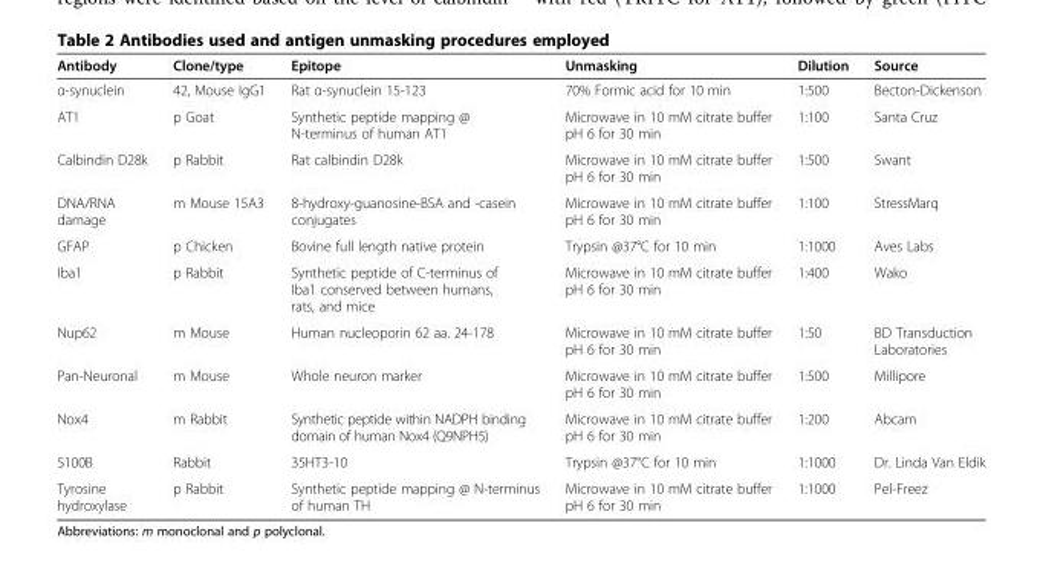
<table><thead><tr><td>Antibody</td><td>Clone/type</td><td>Epitope</td><td>Unmasking</td><td>Dilution</td><td>Source</td></tr></thead><tbody><tr><td>α-synuclein</td><td>42, Mouse IgG1</td><td>Rat α-synuclein 15-123</td><td>70% Formic acid for 10 min</td><td>1:500</td><td>Becton-Dickenson</td></tr><tr><td>AT1</td><td>p Goat</td><td>Synthetic peptide mapping @ N-terminus of human AT1</td><td>Microwave in 10 mM citrate buffer pH 6 for 30 min</td><td>1:100</td><td>Santa Cruz</td></tr><tr><td>Calbindin D28k</td><td>p Rabbit</td><td>Rat calbindin D28k</td><td>Microwave in 10 mM citrate buffer pH 6 for 30 min</td><td>1:500</td><td>Swant</td></tr><tr><td>DNA/RNA damage</td><td>m Mouse 15A3</td><td>8-hydroxy-guanosine-BSA and -casein conjugates</td><td>Microwave in 10 mM citrate buffer pH 6 for 30 min</td><td>1:100</td><td>StressMarq</td></tr><tr><td>GFAP</td><td>p Chicken</td><td>Bovine full length native protein</td><td>Trypsin @37°C for 10 min</td><td>1:1000</td><td>Aves Labs</td></tr><tr><td>Iba1</td><td>p Rabbit</td><td>Synthetic peptide of C-terminus of Iba1 conserved between humans, rats, and mice</td><td>Microwave in 10 mM citrate buffer pH 6 for 30 min</td><td>1:400</td><td>Wako</td></tr><tr><td>Nup62</td><td>m Mouse</td><td>Human nucleoporin 62 aa. 24-178</td><td>Microwave in 10 mM citrate buffer pH 6 for 30 min</td><td>1:50</td><td>BD Transduction Laboratories</td></tr><tr><td>Pan-Neuronal</td><td>m Mouse</td><td>Whole neuron marker</td><td>Microwave in 10 mM citrate buffer pH 6 for 30 min</td><td>1:500</td><td>Millipore</td></tr><tr><td>Nox4</td><td>m Rabbit</td><td>Synthetic peptide within NADPH binding domain of human Nox4 (Q9NPH5)</td><td>Microwave in 10 mM citrate buffer pH 6 for 30 min</td><td>1:200</td><td>Abcam</td></tr><tr><td>S100B</td><td>Rabbit</td><td>35HT3-10</td><td>Trypsin @37°C for 10 min</td><td>1:1000</td><td>Dr. Linda Van Eldik</td></tr><tr><td>Tyrosine hydroxylase</td><td>p Rabbit</td><td>Synthetic peptide mapping @ N-terminus of human TH</td><td>Microwave in 10 mM citrate buffer pH 6 for 30 min</td><td>1:1000</td><td>Pel-Freez</td></tr></tbody></table>